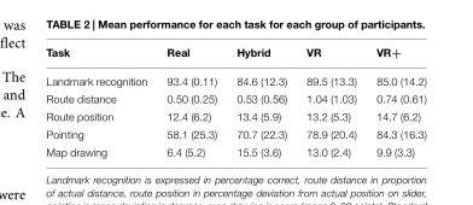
<table><thead><tr><td>Task</td><td>Real</td><td>Hybrid</td><td>VR</td><td>VR+</td></tr></thead><tbody><tr><td>Landmark recognition</td><td>93.4 (0.11)</td><td>84.6 (12.3)</td><td>89.5 (13.3)</td><td>85.0 (14.2)</td></tr><tr><td>Route distance</td><td>0.50 (0.25)</td><td>0.53 (0.56)</td><td>1.04 (1.03)</td><td>0.74 (0.61)</td></tr><tr><td>Route position</td><td>12.4 (6.2)</td><td>13.4 (5.9)</td><td>13.2 (5.3)</td><td>14.7 (6.2)</td></tr><tr><td>Pointing</td><td>58.1 (25.3)</td><td>70.7 (22.3)</td><td>78.9 (20.4)</td><td>84.3 (16.3)</td></tr><tr><td>Map drawing</td><td>6.4 (5.2)</td><td>15.5 (3.6)</td><td>13.0 (2.4)</td><td>9.9 (3.3)</td></tr></tbody></table>